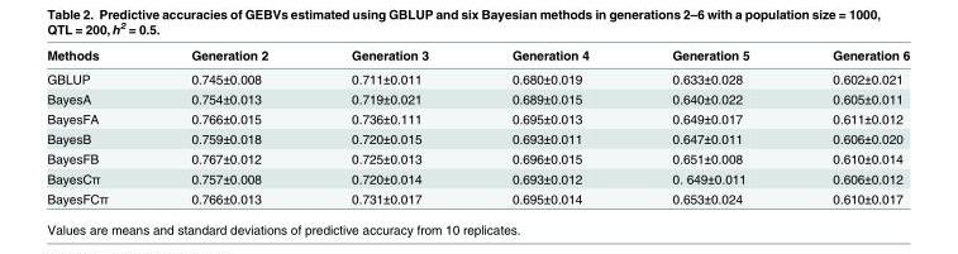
<table><thead><tr><td>Methods</td><td>Generation 2</td><td>Generation 3</td><td>Generation 4</td><td>Generation 5</td><td>Generation 6</td></tr></thead><tbody><tr><td>GBLUP</td><td>0.745±0.008</td><td>0.711±0.011</td><td>0.680±0.019</td><td>0.633±0.028</td><td>0.602±0.021</td></tr><tr><td>BayesA</td><td>0.754±0.013</td><td>0.719±0.021</td><td>0.689±0.015</td><td>0.640±0.022</td><td>0.605±0.011</td></tr><tr><td>BayesFA</td><td>0.766±0.015</td><td>0.736±0.111</td><td>0.695±0.013</td><td>0.649±0.017</td><td>0.611±0.012</td></tr><tr><td>BayesB</td><td>0.759±0.018</td><td>0.720±0.015</td><td>0.693±0.011</td><td>0.647±0.011</td><td>0.606±0.020</td></tr><tr><td>BayesFB</td><td>0.767±0.012</td><td>0.725±0.013</td><td>0.696±0.015</td><td>0.651±0.008</td><td>0.610±0.014</td></tr><tr><td>BayesCπ</td><td>0.757±0.008</td><td>0.720±0.014</td><td>0.693±0.012</td><td>0. 649±0.011</td><td>0.606±0.012</td></tr><tr><td>BayesFCπ</td><td>0.766±0.013</td><td>0.731±0.017</td><td>0.695±0.014</td><td>0.653±0.024</td><td>0.610±0.017</td></tr></tbody></table>